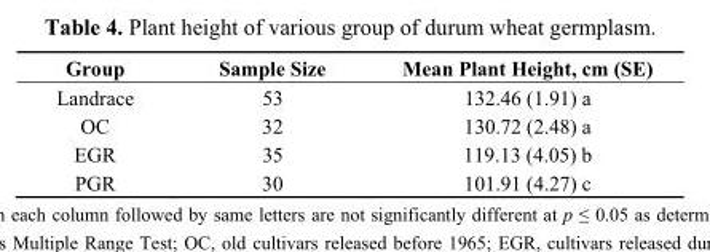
<table><thead><tr><td>Group</td><td>Sample Size</td><td>Mean Plant Height, cm (SE)</td></tr></thead><tbody><tr><td>Landrace</td><td>53</td><td>132.46 (1.91) a</td></tr><tr><td>OC</td><td>32</td><td>130.72 (2.48) a</td></tr><tr><td>EGR</td><td>35</td><td>119.13 (4.05) b</td></tr><tr><td>PGR</td><td>30</td><td>101.91 (4.27) c</td></tr></tbody></table>